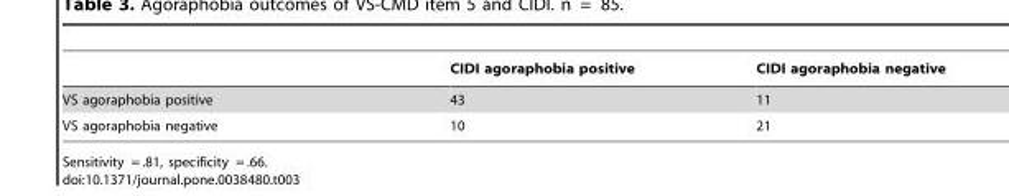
<table><thead><tr><td></td><td>CIDI agoraphobia positive</td><td>CIDI agoraphobia negative</td></tr></thead><tbody><tr><td>VS agoraphobia positive</td><td>43</td><td>11</td></tr><tr><td>VS agoraphobia negative</td><td>10</td><td>21</td></tr></tbody></table>